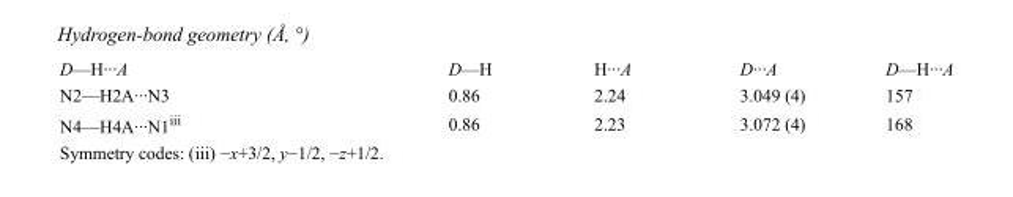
<table><tbody><tr><td>D—H···A</td><td>D—H</td><td>H···A</td><td>D···A</td><td>D—H···A</td></tr><tr><td>N2—H2A···N3</td><td>0.86</td><td>2.24</td><td>3.049 (4)</td><td>157</td></tr><tr><td>N4—H4A···N1<sup>iii</sup></td><td>0.86</td><td>2.23</td><td>3.072 (4)</td><td>168</td></tr></tbody></table>